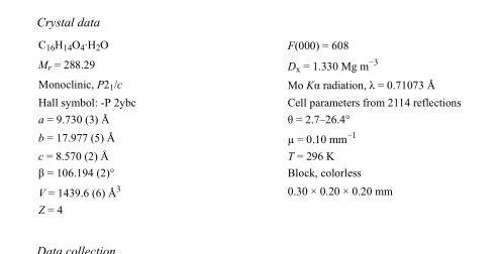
<table><tbody><tr><td>C<sub>16</sub>H<sub>14</sub>O<sub>4</sub>·H<sub>2</sub>O</td><td>F(000) = 608</td></tr><tr><td>M<sub>r</sub> = 288.29</td><td>D<sub>x</sub> = 1.330 Mg m<sup>−3</sup></td></tr><tr><td>Monoclinic, P2<sub>1</sub>/c</td><td>Mo Kα radiation, λ = 0.71073 Å</td></tr><tr><td>Hall symbol: -P 2ybc</td><td>Cell parameters from 2114 reflections</td></tr><tr><td>a = 9.730 (3) Å</td><td>θ = 2.7–26.4°</td></tr><tr><td>b = 17.977 (5) Å</td><td>µ = 0.10 mm<sup>−1</sup></td></tr><tr><td>c = 8.570 (2) Å</td><td>T = 296 K</td></tr><tr><td>β = 106.194 (2)°</td><td>Block, colorless</td></tr><tr><td>V = 1439.6 (6) Å<sup>3</sup></td><td>0.30 × 0.20 × 0.20 mm</td></tr><tr><td>Z = 4</td><td></td></tr></tbody></table>